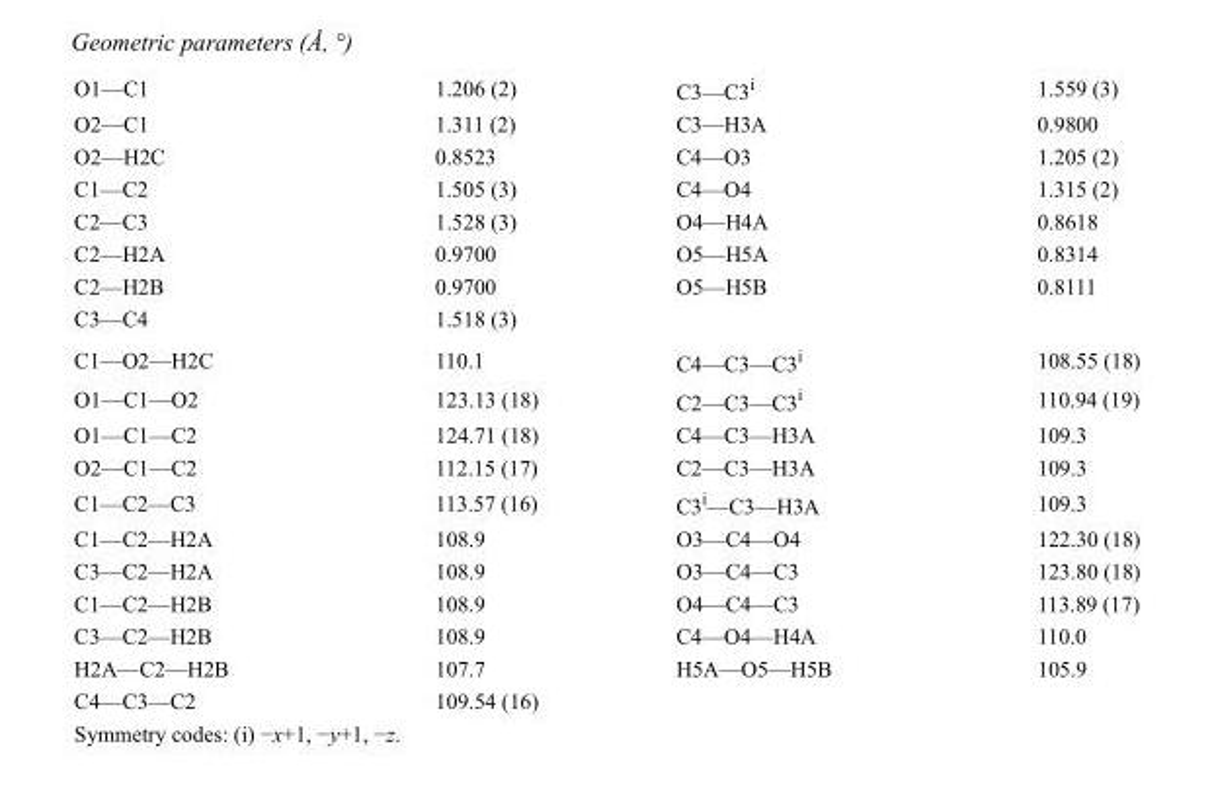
<table><tbody><tr><td>O1—C1</td><td>1.206 (2)</td><td>C3—C3<sup>i</sup></td><td>1.559 (3)</td></tr><tr><td>O2—C1</td><td>1.311 (2)</td><td>C3—H3A</td><td>0.9800</td></tr><tr><td>O2—H2C</td><td>0.8523</td><td>C4—O3</td><td>1.205 (2)</td></tr><tr><td>C1—C2</td><td>1.505 (3)</td><td>C4—O4</td><td>1.315 (2)</td></tr><tr><td>C2—C3</td><td>1.528 (3)</td><td>O4—H4A</td><td>0.8618</td></tr><tr><td>C2—H2A</td><td>0.9700</td><td>O5—H5A</td><td>0.8314</td></tr><tr><td>C2—H2B</td><td>0.9700</td><td>O5—H5B</td><td>0.8111</td></tr><tr><td>C3—C4</td><td>1.518 (3)</td><td></td><td></td></tr><tr><td>C1—O2—H2C</td><td>110.1</td><td>C4—C3—C3<sup>i</sup></td><td>108.55 (18)</td></tr><tr><td>O1—C1—O2</td><td>123.13 (18)</td><td>C2—C3—C3<sup>i</sup></td><td>110.94 (19)</td></tr><tr><td>O1—C1—C2</td><td>124.71 (18)</td><td>C4—C3—H3A</td><td>109.3</td></tr><tr><td>O2—C1—C2</td><td>112.15 (17)</td><td>C2—C3—H3A</td><td>109.3</td></tr><tr><td>C1—C2—C3</td><td>113.57 (16)</td><td>C3<sup>i</sup>—C3—H3A</td><td>109.3</td></tr><tr><td>C1—C2—H2A</td><td>108.9</td><td>O3—C4—O4</td><td>122.30 (18)</td></tr><tr><td>C3—C2—H2A</td><td>108.9</td><td>O3—C4—C3</td><td>123.80 (18)</td></tr><tr><td>C1—C2—H2B</td><td>108.9</td><td>O4—C4—C3</td><td>113.89 (17)</td></tr><tr><td>C3—C2—H2B</td><td>108.9</td><td>C4—O4—H4A</td><td>110.0</td></tr><tr><td>H2A—C2—H2B</td><td>107.7</td><td>H5A—O5—H5B</td><td>105.9</td></tr><tr><td>C4—C3—C2</td><td>109.54 (16)</td><td></td><td></td></tr></tbody></table>